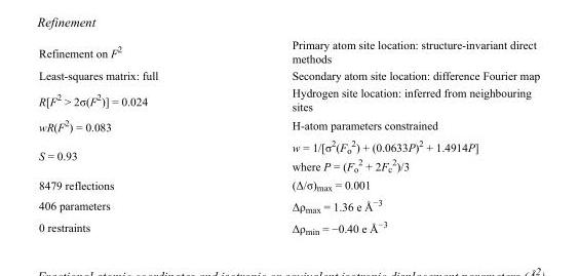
<table><tbody><tr><td>Refinement on F<sup>2</sup></td><td>Primary atom site location: structure-invariant direct methods</td></tr><tr><td>Least-squares matrix: full</td><td>Secondary atom site location: difference Fourier map</td></tr><tr><td>R[F<sup>2</sup> &gt; 2σ(F<sup>2</sup>)] = 0.024</td><td>Hydrogen site location: inferred from neighbouring sites</td></tr><tr><td>wR(F<sup>2</sup>) = 0.083</td><td>H-atom parameters constrained</td></tr><tr><td>S = 0.93</td><td>w = 1/[σ<sup>2</sup>(F<sub>o</sub> <sup>2</sup>) + (0.0633P)<sup>2</sup> + 1.4914P] where P = (F<sub>o</sub> <sup>2</sup> + 2F<sub>c</sub> <sup>2</sup>)/3</td></tr><tr><td>8479 reflections</td><td>(Δ/σ)<sub>max</sub> = 0.001</td></tr><tr><td>406 parameters</td><td>Δρ<sub>max</sub> = 1.36 e Å<sup>−3</sup></td></tr><tr><td>0 restraints</td><td>Δρ<sub>min</sub> = −0.40 e Å<sup>−3</sup></td></tr></tbody></table>